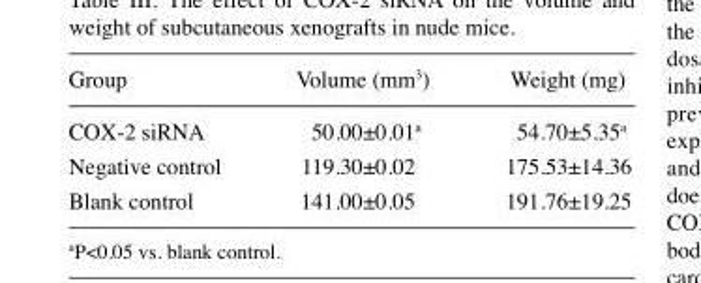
<table><thead><tr><td>Group</td><td>Volume (mm<sup>3</sup>)</td><td>Weight (mg)</td></tr></thead><tbody><tr><td>COX-2 siRNA</td><td>50.00±0.01<sup>a</sup></td><td>54.70±5.35<sup>a</sup></td></tr><tr><td>Negative control</td><td>119.30±0.02</td><td>175.53±14.36</td></tr><tr><td>Blank control</td><td>141.00±0.05</td><td>191.76±19.25</td></tr></tbody></table>